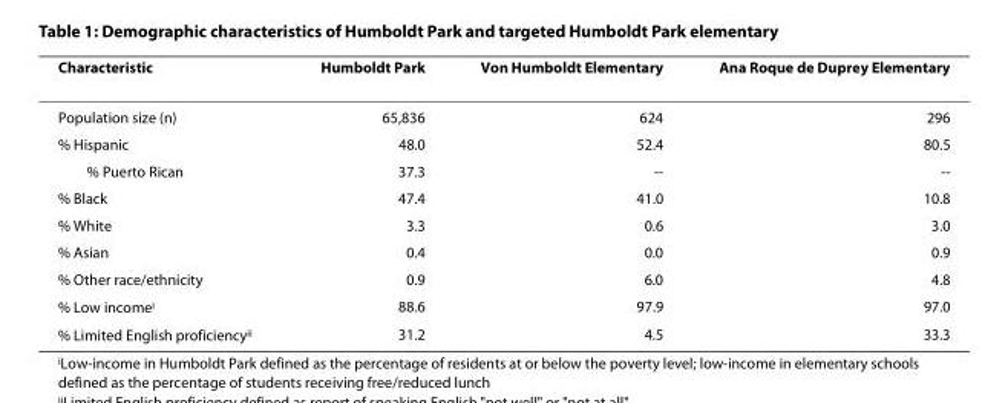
<table><thead><tr><td>Characteristic</td><td>Humboldt Park</td><td>Von Humboldt Elementary</td><td>Ana Roque de Duprey Elementary</td></tr></thead><tbody><tr><td>Population size (n)</td><td>65,836</td><td>624</td><td>296</td></tr><tr><td>% Hispanic</td><td>48.0</td><td>52.4</td><td>80.5</td></tr><tr><td>% Puerto Rican</td><td>37.3</td><td>--</td><td>--</td></tr><tr><td>% Black</td><td>47.4</td><td>41.0</td><td>10.8</td></tr><tr><td>% White</td><td>3.3</td><td>0.6</td><td>3.0</td></tr><tr><td>% Asian</td><td>0.4</td><td>0.0</td><td>0.9</td></tr><tr><td>% Other race/ethnicity</td><td>0.9</td><td>6.0</td><td>4.8</td></tr><tr><td>% Low income<sup>i</sup></td><td>88.6</td><td>97.9</td><td>97.0</td></tr><tr><td>% Limited English proficiency<sup>ii</sup></td><td>31.2</td><td>4.5</td><td>33.3</td></tr></tbody></table>